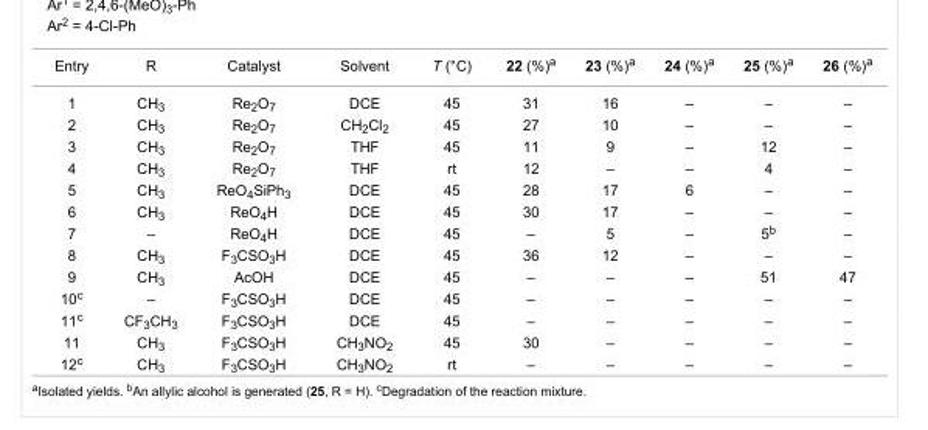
<table><tbody><tr><td>Entry</td><td>R</td><td>Catalyst</td><td>Solvent</td><td>T (°C)</td><td>22 (%)<sup>a</sup></td><td>23 (%)<sup>a</sup></td><td>24 (%)<sup>a</sup></td><td>25 (%)<sup>a</sup></td><td>26 (%)<sup>a</sup></td></tr><tr><td>1</td><td>CH<sub>3</sub></td><td>Re<sub>2</sub>O<sub>7</sub></td><td>DCE</td><td>45</td><td>31</td><td>16</td><td>–</td><td>–</td><td>–</td></tr><tr><td>2</td><td>CH<sub>3</sub></td><td>Re<sub>2</sub>O<sub>7</sub></td><td>CH<sub>2</sub>Cl<sub>2</sub></td><td>45</td><td>27</td><td>10</td><td>–</td><td>–</td><td>–</td></tr><tr><td>3</td><td>CH<sub>3</sub></td><td>Re<sub>2</sub>O<sub>7</sub></td><td>THF</td><td>45</td><td>11</td><td>9</td><td>–</td><td>12</td><td>–</td></tr><tr><td>4</td><td>CH<sub>3</sub></td><td>Re<sub>2</sub>O<sub>7</sub></td><td>THF</td><td>rt</td><td>12</td><td>–</td><td>–</td><td>4</td><td>–</td></tr><tr><td>5</td><td>CH<sub>3</sub></td><td>ReO<sub>4</sub>SiPh<sub>3</sub></td><td>DCE</td><td>45</td><td>28</td><td>17</td><td>6</td><td>–</td><td>–</td></tr><tr><td>6</td><td>CH<sub>3</sub></td><td>ReO<sub>4</sub>H</td><td>DCE</td><td>45</td><td>30</td><td>17</td><td>–</td><td>–</td><td>–</td></tr><tr><td>7</td><td>–</td><td>ReO<sub>4</sub>H</td><td>DCE</td><td>45</td><td>–</td><td>5</td><td>–</td><td>5<sup>b</sup></td><td>–</td></tr><tr><td>8</td><td>CH<sub>3</sub></td><td>F<sub>3</sub>CSO<sub>3</sub>H</td><td>DCE</td><td>45</td><td>36</td><td>12</td><td>–</td><td>–</td><td>–</td></tr><tr><td>9</td><td>CH<sub>3</sub></td><td>AcOH</td><td>DCE</td><td>45</td><td>–</td><td>–</td><td>–</td><td>51</td><td>47</td></tr><tr><td>10<sup>c</sup></td><td>–</td><td>F<sub>3</sub>CSO<sub>3</sub>H</td><td>DCE</td><td>45</td><td>–</td><td>–</td><td>–</td><td>–</td><td>–</td></tr><tr><td>11<sup>c</sup></td><td>CF<sub>3</sub>CH<sub>3</sub></td><td>F<sub>3</sub>CSO<sub>3</sub>H</td><td>DCE</td><td>45</td><td>–</td><td>–</td><td>–</td><td>–</td><td>–</td></tr><tr><td>11</td><td>CH<sub>3</sub></td><td>F<sub>3</sub>CSO<sub>3</sub>H</td><td>CH<sub>3</sub>NO<sub>2</sub></td><td>45</td><td>30</td><td>–</td><td>–</td><td>–</td><td>–</td></tr><tr><td>12<sup>c</sup></td><td>CH<sub>3</sub></td><td>F<sub>3</sub>CSO<sub>3</sub>H</td><td>CH<sub>3</sub>NO<sub>2</sub></td><td>rt</td><td>–</td><td>–</td><td>–</td><td>–</td><td>–</td></tr></tbody></table>